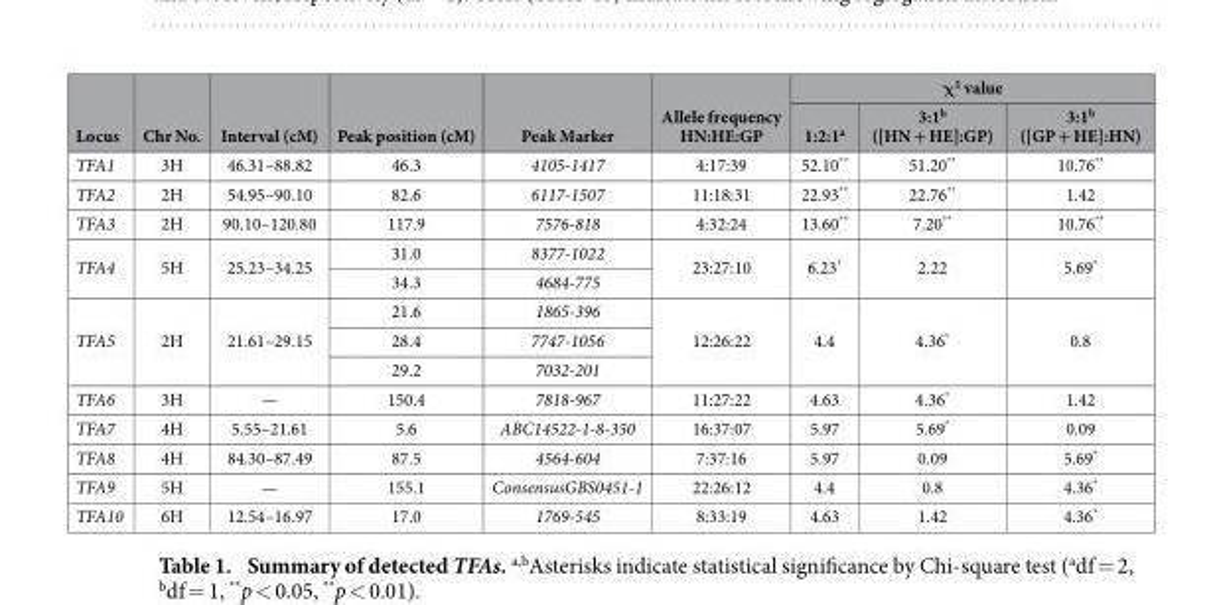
<table><thead><tr><td rowspan="2">Locus</td><td rowspan="2">Chr No.</td><td rowspan="2">Interval (cM)</td><td rowspan="2">Peak position (cM)</td><td rowspan="2">Peak Marker</td><td rowspan="2">Allele frequency HN:HE:GP</td><td colspan="3">χ<sup>2</sup> value</td></tr><tr><td>1:2:1<sup>a</sup></td><td>3:1<sup>b</sup> ([HN + HE]:GP)</td><td>3:1<sup>b</sup> ([GP + HE]:HN)</td></tr></thead><tbody><tr><td>TFA1</td><td>3H</td><td>46.31–88.82</td><td>46.3</td><td>4105-1417</td><td>4:17:39</td><td>52.10**</td><td>51.20**</td><td>10.76**</td></tr><tr><td>TFA2</td><td>2H</td><td>54.95–90.10</td><td>82.6</td><td>6117-1507</td><td>11:18:31</td><td>22.93**</td><td>22.76**</td><td>1.42</td></tr><tr><td>TFA3</td><td>2H</td><td>90.10–120.80</td><td>117.9</td><td>7576-818</td><td>4:32:24</td><td>13.60**</td><td>7.20**</td><td>10.76**</td></tr><tr><td rowspan="2">TFA4</td><td rowspan="2">5H</td><td rowspan="2">25.23–34.25</td><td>31.0</td><td>8377-1022</td><td rowspan="2">23:27:10</td><td rowspan="2">6.23*</td><td rowspan="2">2.22</td><td rowspan="2">5.69*</td></tr><tr><td>34.3</td><td>4684-775</td></tr><tr><td rowspan="3">TFA5</td><td rowspan="3">2H</td><td rowspan="3">21.61–29.15</td><td>21.6</td><td>1865-396</td><td rowspan="3">12:26:22</td><td rowspan="3">4.4</td><td rowspan="3">4.36*</td><td rowspan="3">0.8</td></tr><tr><td>28.4</td><td>7747-1056</td></tr><tr><td>29.2</td><td>7032-201</td></tr><tr><td>TFA6</td><td>3H</td><td>—</td><td>150.4</td><td>7818-967</td><td>11:27:22</td><td>4.63</td><td>4.36*</td><td>1.42</td></tr><tr><td>TFA7</td><td>4H</td><td>5.55–21.61</td><td>5.6</td><td>ABC14522-1-8-350</td><td>16:37:07</td><td>5.97</td><td>5.69*</td><td>0.09</td></tr><tr><td>TFA8</td><td>4H</td><td>84.30–87.49</td><td>87.5</td><td>4564-604</td><td>7:37:16</td><td>5.97</td><td>0.09</td><td>5.69*</td></tr><tr><td>TFA9</td><td>5H</td><td>—</td><td>155.1</td><td>ConsensusGBS0451-1</td><td>22:26:12</td><td>4.4</td><td>0.8</td><td>4.36*</td></tr><tr><td>TFA10</td><td>6H</td><td>12.54–16.97</td><td>17.0</td><td>1769-545</td><td>8:33:19</td><td>4.63</td><td>1.42</td><td>4.36*</td></tr></tbody></table>